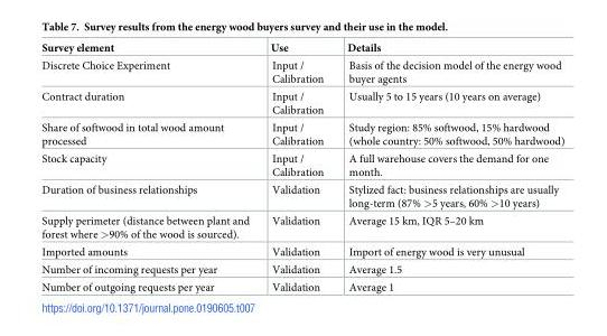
<table><thead><tr><td>Survey element</td><td>Use</td><td>Details</td></tr></thead><tbody><tr><td>Discrete Choice Experiment</td><td>Input / Calibration</td><td>Basis of the decision model of the energy wood buyer agents</td></tr><tr><td>Contract duration</td><td>Input / Calibration</td><td>Usually 5 to 15 years (10 years on average)</td></tr><tr><td>Share of softwood in total wood amount processed</td><td>Input / Calibration</td><td>Study region: 85% softwood, 15% hardwood (whole country: 50% softwood, 50% hardwood)</td></tr><tr><td>Stock capacity</td><td>Input / Calibration</td><td>A full warehouse covers the demand for one month.</td></tr><tr><td>Duration of business relationships</td><td>Validation</td><td>Stylized fact: business relationships are usually long-term (87% &gt;5 years, 60% &gt;10 years)</td></tr><tr><td>Supply perimeter (distance between plant and forest where &gt;90% of the wood is sourced).</td><td>Validation</td><td>Average 15 km, IQR 5–20 km</td></tr><tr><td>Imported amounts</td><td>Validation</td><td>Import of energy wood is very unusual</td></tr><tr><td>Number of incoming requests per year</td><td>Validation</td><td>Average 1.5</td></tr><tr><td>Number of outgoing requests per year</td><td>Validation</td><td>Average 1</td></tr></tbody></table>